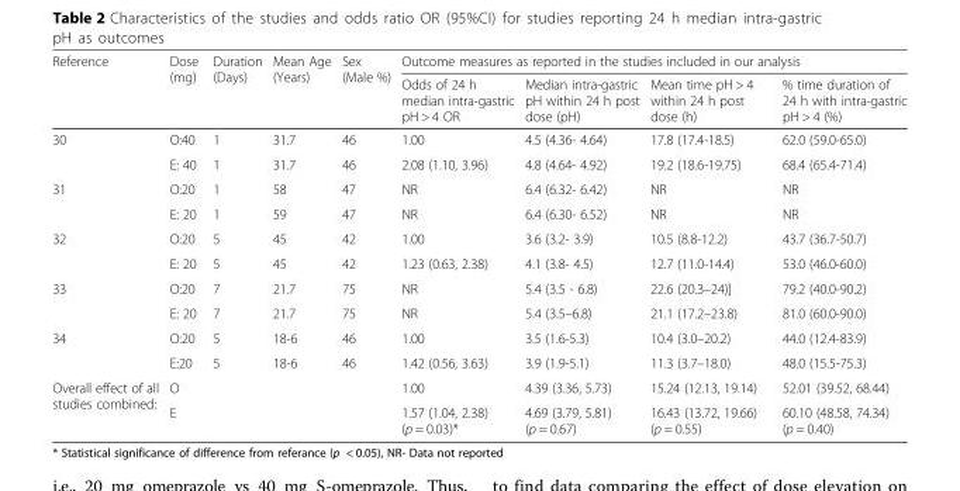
<table><thead><tr><td rowspan="2">Reference</td><td rowspan="2">Dose (mg)</td><td rowspan="2">Duration (Days)</td><td rowspan="2">Mean Age (Years)</td><td rowspan="2">Sex (Male %)</td><td colspan="4">Outcome measures as reported in the studies included in our analysis</td></tr><tr><td>Odds of 24 h median intra-gastric pH &gt; 4 OR</td><td>Median intra-gastric pH within 24 h post dose (pH)</td><td>Mean time pH &gt; 4 within 24 h post dose (h)</td><td>% time duration of 24 h with intra-gastric pH &gt; 4 (%)</td></tr></thead><tbody><tr><td rowspan="2">30</td><td>O:40</td><td>1</td><td>31.7</td><td>46</td><td>1.00</td><td>4.5 (4.36- 4.64)</td><td>17.8 (17.4-18.5)</td><td>62.0 (59.0-65.0)</td></tr><tr><td>E: 40</td><td>1</td><td>31.7</td><td>46</td><td>2.08 (1.10, 3.96)</td><td>4.8 (4.64- 4.92)</td><td>19.2 (18.6-19.75)</td><td>68.4 (65.4-71.4)</td></tr><tr><td rowspan="2">31</td><td>O:20</td><td>1</td><td>58</td><td>47</td><td>NR</td><td>6.4 (6.32- 6.42)</td><td>NR</td><td>NR</td></tr><tr><td>E: 20</td><td>1</td><td>59</td><td>47</td><td>NR</td><td>6.4 (6.30- 6.52)</td><td>NR</td><td>NR</td></tr><tr><td rowspan="2">32</td><td>O:20</td><td>5</td><td>45</td><td>42</td><td>1.00</td><td>3.6 (3.2- 3.9)</td><td>10.5 (8.8-12.2)</td><td>43.7 (36.7-50.7)</td></tr><tr><td>E: 20</td><td>5</td><td>45</td><td>42</td><td>1.23 (0.63, 2.38)</td><td>4.1 (3.8- 4.5)</td><td>12.7 (11.0-14.4)</td><td>53.0 (46.0-60.0)</td></tr><tr><td rowspan="2">33</td><td>O:20</td><td>7</td><td>21.7</td><td>75</td><td>NR</td><td>5.4 (3.5 - 6.8)</td><td>22.6 (20.3–24)]</td><td>79.2 (40.0-90.2)</td></tr><tr><td>E: 20</td><td>7</td><td>21.7</td><td>75</td><td>NR</td><td>5.4 (3.5–6.8)</td><td>21.1 (17.2–23.8)</td><td>81.0 (60.0-90.0)</td></tr><tr><td rowspan="2">34</td><td>O:20</td><td>5</td><td>18-6</td><td>46</td><td>1.00</td><td>3.5 (1.6-5.3)</td><td>10.4 (3.0–20.2)</td><td>44.0 (12.4-83.9)</td></tr><tr><td>E:20</td><td>5</td><td>18-6</td><td>46</td><td>1.42 (0.56, 3.63)</td><td>3.9 (1.9-5.1)</td><td>11.3 (3.7–18.0)</td><td>48.0 (15.5-75.3)</td></tr><tr><td rowspan="2">Overall effect of all studies combined:</td><td>O</td><td></td><td></td><td></td><td>1.00</td><td>4.39 (3.36, 5.73)</td><td>15.24 (12.13, 19.14)</td><td>52.01 (39.52, 68.44)</td></tr><tr><td>E</td><td></td><td></td><td></td><td>1.57 (1.04, 2.38) (p = 0.03)*</td><td>4.69 (3.79, 5.81) (p = 0.67)</td><td>16.43 (13.72, 19.66) (p = 0.55)</td><td>60.10 (48.58, 74.34) (p = 0.40)</td></tr></tbody></table>